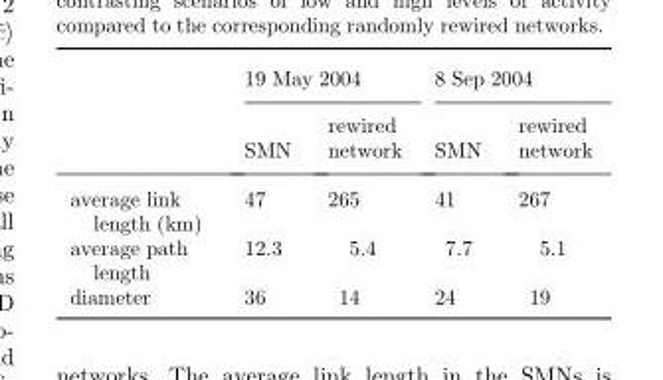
<table><thead><tr><td rowspan="2"></td><td colspan="2">19 May 2004</td><td colspan="2">8 Sep 2004</td></tr><tr><td>SMN</td><td>rewired network</td><td>SMN</td><td>rewired network</td></tr></thead><tbody><tr><td>average link length (km)</td><td>47</td><td>265</td><td>41</td><td>267</td></tr><tr><td>average path length</td><td>12.3</td><td>5.4</td><td>7.7</td><td>5.1</td></tr><tr><td>diameter</td><td>36</td><td>14</td><td>24</td><td>19</td></tr></tbody></table>